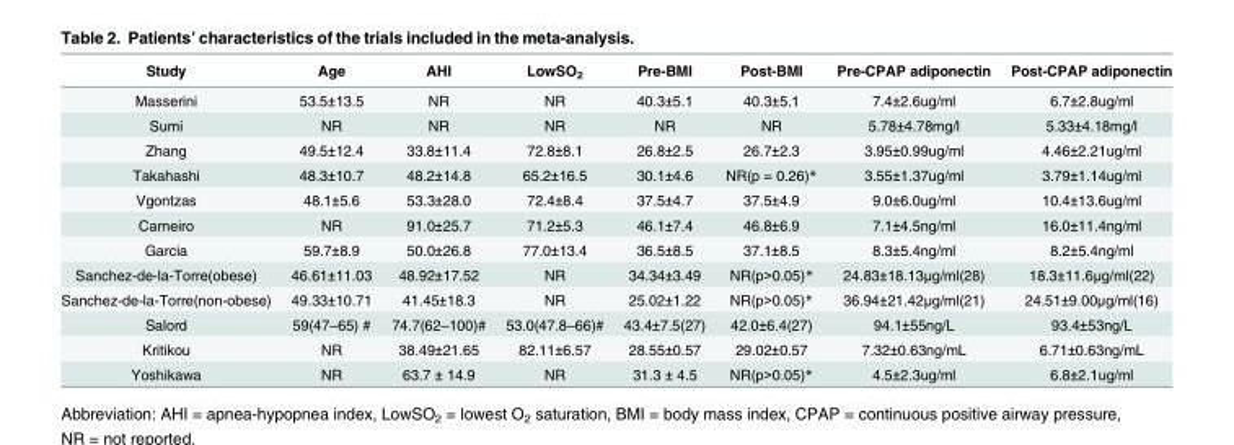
<table><thead><tr><td>Study</td><td>Age</td><td>AHI</td><td>LowSO<sub>2</sub></td><td>Pre-BMI</td><td>Post-BMI</td><td>Pre-CPAP adiponectin</td><td>Post-CPAP adiponectin</td></tr></thead><tbody><tr><td>Masserini</td><td>53.5±13.5</td><td>NR</td><td>NR</td><td>40.3±5.1</td><td>40.3±5.1</td><td>7.4±2.6ug/ml</td><td>6.7±2.8ug/ml</td></tr><tr><td>Sumi</td><td>NR</td><td>NR</td><td>NR</td><td>NR</td><td>NR</td><td>5.78±4.78mg/l</td><td>5.33±4.18mg/l</td></tr><tr><td>Zhang</td><td>49.5±12.4</td><td>33.8±11.4</td><td>72.8±8.1</td><td>26.8±2.5</td><td>26.7±2.3</td><td>3.95±0.99ug/ml</td><td>4.46±2.21ug/ml</td></tr><tr><td>Takahashi</td><td>48.3±10.7</td><td>48.2±14.8</td><td>65.2±16.5</td><td>30.1±4.6</td><td>NR(p = 0.26)*</td><td>3.55±1.37ug/ml</td><td>3.79±1.14ug/ml</td></tr><tr><td>Vgontzas</td><td>48.1±5.6</td><td>53.3±28.0</td><td>72.4±8.4</td><td>37.5±4.7</td><td>37.5±4.9</td><td>9.0±6.0ug/ml</td><td>10.4±13.6ug/ml</td></tr><tr><td>Carneiro</td><td>NR</td><td>91.0±25.7</td><td>71.2±5.3</td><td>46.1±7.4</td><td>46.8±6.9</td><td>7.1±4.5ng/ml</td><td>16.0±11.4ng/ml</td></tr><tr><td>Garcia</td><td>59.7±8.9</td><td>50.0±26.8</td><td>77.0±13.4</td><td>36.5±8.5</td><td>37.1±8.5</td><td>8.3±5.4ng/ml</td><td>8.2±5.4ng/ml</td></tr><tr><td>Sanchez-de-la-Torre(obese)</td><td>46.61±11.03</td><td>48.92±17.52</td><td>NR</td><td>34.34±3.49</td><td>NR(p&gt;0.05)*</td><td>24.83±18.13μg/ml(28)</td><td>18.3±11.6μg/ml(22)</td></tr><tr><td>Sanchez-de-la-Torre(non-obese)</td><td>49.33±10.71</td><td>41.45±18.3</td><td>NR</td><td>25.02±1.22</td><td>NR(p&gt;0.05)*</td><td>36.94±21.42μg/ml(21)</td><td>24.51±9.00μg/ml(16)</td></tr><tr><td>Salord</td><td>59(47–65) #</td><td>74.7(62–100)#</td><td>53.0(47.8–66)#</td><td>43.4±7.5(27)</td><td>42.0±6.4(27)</td><td>94.1±55ng/L</td><td>93.4±53ng/L</td></tr><tr><td>Kritikou</td><td>NR</td><td>38.49±21.65</td><td>82.11±6.57</td><td>28.55±0.57</td><td>29.02±0.57</td><td>7.32±0.63ng/mL</td><td>6.71±0.63ng/mL</td></tr><tr><td>Yoshikawa</td><td>NR</td><td>63.7 ± 14.9</td><td>NR</td><td>31.3 ± 4.5</td><td>NR(p&gt;0.05)*</td><td>4.5±2.3ug/ml</td><td>6.8±2.1ug/ml</td></tr></tbody></table>